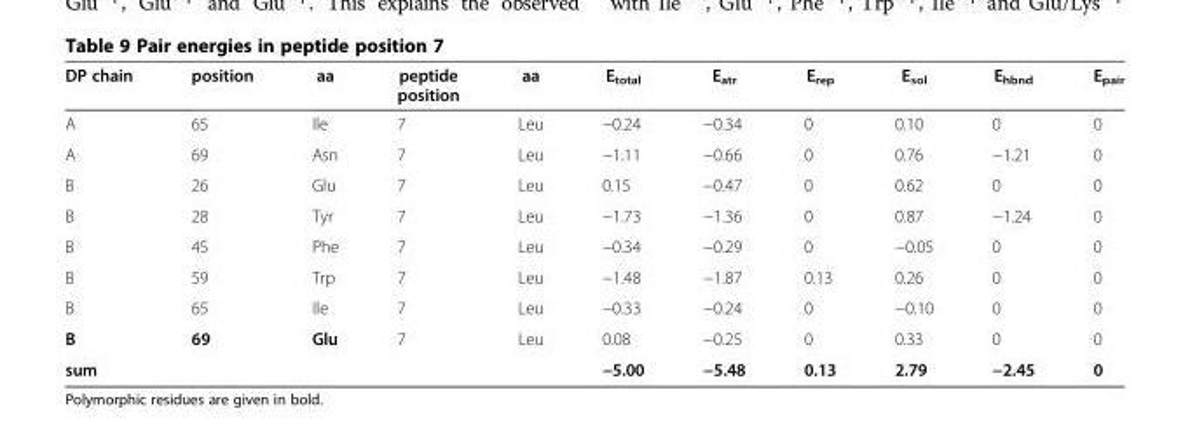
<table><thead><tr><td>DP chain</td><td>position</td><td>aa</td><td>peptide position</td><td>aa</td><td>E<sub>total</sub></td><td>E<sub>atr</sub></td><td>E<sub>rep</sub></td><td>E<sub>sol</sub></td><td>E<sub>hbnd</sub></td><td>E<sub>pair</sub></td></tr></thead><tbody><tr><td>A</td><td>65</td><td>Ile</td><td>7</td><td>Leu</td><td>−0.24</td><td>−0.34</td><td>0</td><td>0.10</td><td>0</td><td>0</td></tr><tr><td>A</td><td>69</td><td>Asn</td><td>7</td><td>Leu</td><td>−1.11</td><td>−0.66</td><td>0</td><td>0.76</td><td>−1.21</td><td>0</td></tr><tr><td>B</td><td>26</td><td>Glu</td><td>7</td><td>Leu</td><td>0.15</td><td>−0.47</td><td>0</td><td>0.62</td><td>0</td><td>0</td></tr><tr><td>B</td><td>28</td><td>Tyr</td><td>7</td><td>Leu</td><td>−1.73</td><td>−1.36</td><td>0</td><td>0.87</td><td>−1.24</td><td>0</td></tr><tr><td>B</td><td>45</td><td>Phe</td><td>7</td><td>Leu</td><td>−0.34</td><td>−0.29</td><td>0</td><td>−0.05</td><td>0</td><td>0</td></tr><tr><td>B</td><td>59</td><td>Trp</td><td>7</td><td>Leu</td><td>−1.48</td><td>−1.87</td><td>0.13</td><td>0.26</td><td>0</td><td>0</td></tr><tr><td>B</td><td>65</td><td>Ile</td><td>7</td><td>Leu</td><td>−0.33</td><td>−0.24</td><td>0</td><td>−0.10</td><td>0</td><td>0</td></tr><tr><td>B</td><td>69</td><td>Glu</td><td>7</td><td>Leu</td><td>0.08</td><td>−0.25</td><td>0</td><td>0.33</td><td>0</td><td>0</td></tr><tr><td>sum</td><td></td><td></td><td></td><td></td><td>−5.00</td><td>−5.48</td><td>0.13</td><td>2.79</td><td>−2.45</td><td>0</td></tr></tbody></table>